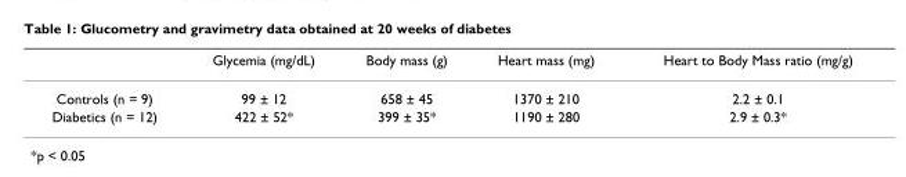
<table><thead><tr><td></td><td>Glycemia (mg/dL)</td><td>Body mass (g)</td><td>Heart mass (mg)</td><td>Heart to Body Mass ratio (mg/g)</td></tr></thead><tbody><tr><td>Controls (n = 9)</td><td>99 ± 12</td><td>658 ± 45</td><td>1370 ± 210</td><td>2.2 ± 0.1</td></tr><tr><td>Diabetics (n = 12)</td><td>422 ± 52*</td><td>399 ± 35*</td><td>1190 ± 280</td><td>2.9 ± 0.3*</td></tr></tbody></table>